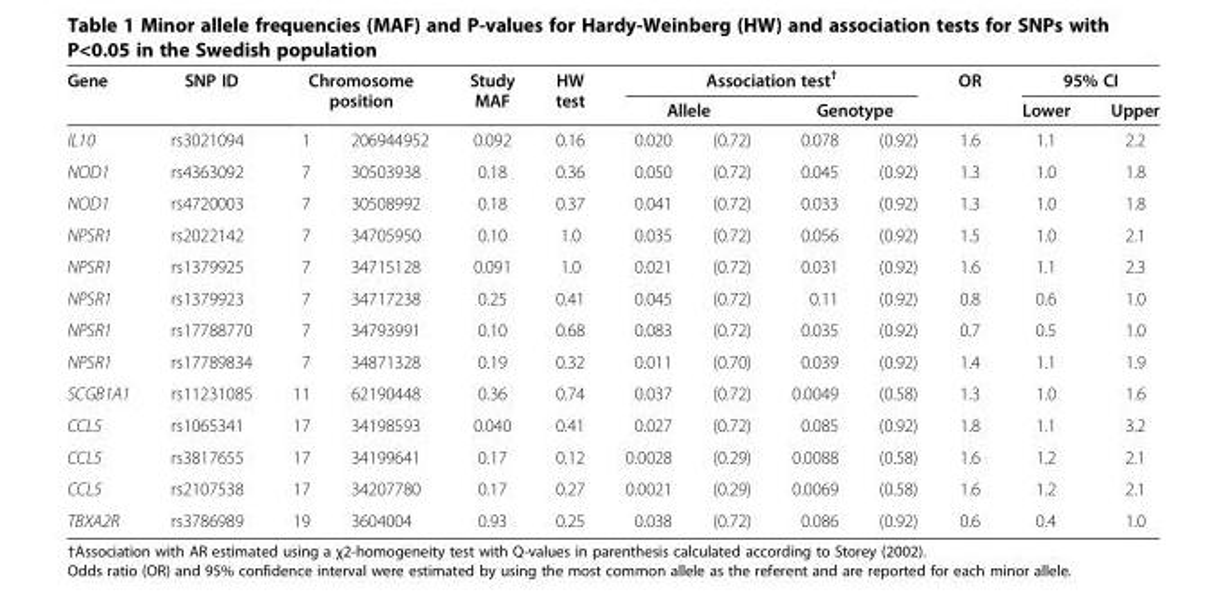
<table><thead><tr><td rowspan="3">Gene IL10</td><td rowspan="3">SNP ID rs3021094</td><td rowspan="2" colspan="2">Chromosome position</td><td rowspan="3">Study MAF 0.092</td><td rowspan="3">HW test 0.16</td><td colspan="4">Association test<sup>†</sup></td><td rowspan="3">OR 1.6</td><td colspan="2">95% CI</td></tr><tr><td colspan="2">Allele</td><td colspan="2">Genotype</td><td rowspan="2">Lower 1.1</td><td rowspan="2">Upper 2.2</td></tr><tr><td>1</td><td>206944952</td><td>0.020</td><td>(0.72)</td><td>0.078</td><td>(0.92)</td></tr></thead><tbody><tr><td>NOD1</td><td>rs4363092</td><td>7</td><td>30503938</td><td>0.18</td><td>0.36</td><td>0.050</td><td>(0.72)</td><td>0.045</td><td>(0.92)</td><td>1.3</td><td>1.0</td><td>1.8</td></tr><tr><td>NOD1</td><td>rs4720003</td><td>7</td><td>30508992</td><td>0.18</td><td>0.37</td><td>0.041</td><td>(0.72)</td><td>0.033</td><td>(0.92)</td><td>1.3</td><td>1.0</td><td>1.8</td></tr><tr><td>NPSR1</td><td>rs2022142</td><td>7</td><td>34705950</td><td>0.10</td><td>1.0</td><td>0.035</td><td>(0.72)</td><td>0.056</td><td>(0.92)</td><td>1.5</td><td>1.0</td><td>2.1</td></tr><tr><td>NPSR1</td><td>rs1379925</td><td>7</td><td>34715128</td><td>0.091</td><td>1.0</td><td>0.021</td><td>(0.72)</td><td>0.031</td><td>(0.92)</td><td>1.6</td><td>1.1</td><td>2.3</td></tr><tr><td>NPSR1</td><td>rs1379923</td><td>7</td><td>34717238</td><td>0.25</td><td>0.41</td><td>0.045</td><td>(0.72)</td><td>0.11</td><td>(0.92)</td><td>0.8</td><td>0.6</td><td>1.0</td></tr><tr><td>NPSR1</td><td>rs17788770</td><td>7</td><td>34793991</td><td>0.10</td><td>0.68</td><td>0.083</td><td>(0.72)</td><td>0.035</td><td>(0.92)</td><td>0.7</td><td>0.5</td><td>1.0</td></tr><tr><td>NPSR1</td><td>rs17789834</td><td>7</td><td>34871328</td><td>0.19</td><td>0.32</td><td>0.011</td><td>(0.70)</td><td>0.039</td><td>(0.92)</td><td>1.4</td><td>1.1</td><td>1.9</td></tr><tr><td>SCGB1A1</td><td>rs11231085</td><td>11</td><td>62190448</td><td>0.36</td><td>0.74</td><td>0.037</td><td>(0.72)</td><td>0.0049</td><td>(0.58)</td><td>1.3</td><td>1.0</td><td>1.6</td></tr><tr><td>CCL5</td><td>rs1065341</td><td>17</td><td>34198593</td><td>0.040</td><td>0.41</td><td>0.027</td><td>(0.72)</td><td>0.085</td><td>(0.92)</td><td>1.8</td><td>1.1</td><td>3.2</td></tr><tr><td>CCL5</td><td>rs3817655</td><td>17</td><td>34199641</td><td>0.17</td><td>0.12</td><td>0.0028</td><td>(0.29)</td><td>0.0088</td><td>(0.58)</td><td>1.6</td><td>1.2</td><td>2.1</td></tr><tr><td>CCL5</td><td>rs2107538</td><td>17</td><td>34207780</td><td>0.17</td><td>0.27</td><td>0.0021</td><td>(0.29)</td><td>0.0069</td><td>(0.58)</td><td>1.6</td><td>1.2</td><td>2.1</td></tr><tr><td>TBXA2R</td><td>rs3786989</td><td>19</td><td>3604004</td><td>0.93</td><td>0.25</td><td>0.038</td><td>(0.72)</td><td>0.086</td><td>(0.92)</td><td>0.6</td><td>0.4</td><td>1.0</td></tr></tbody></table>